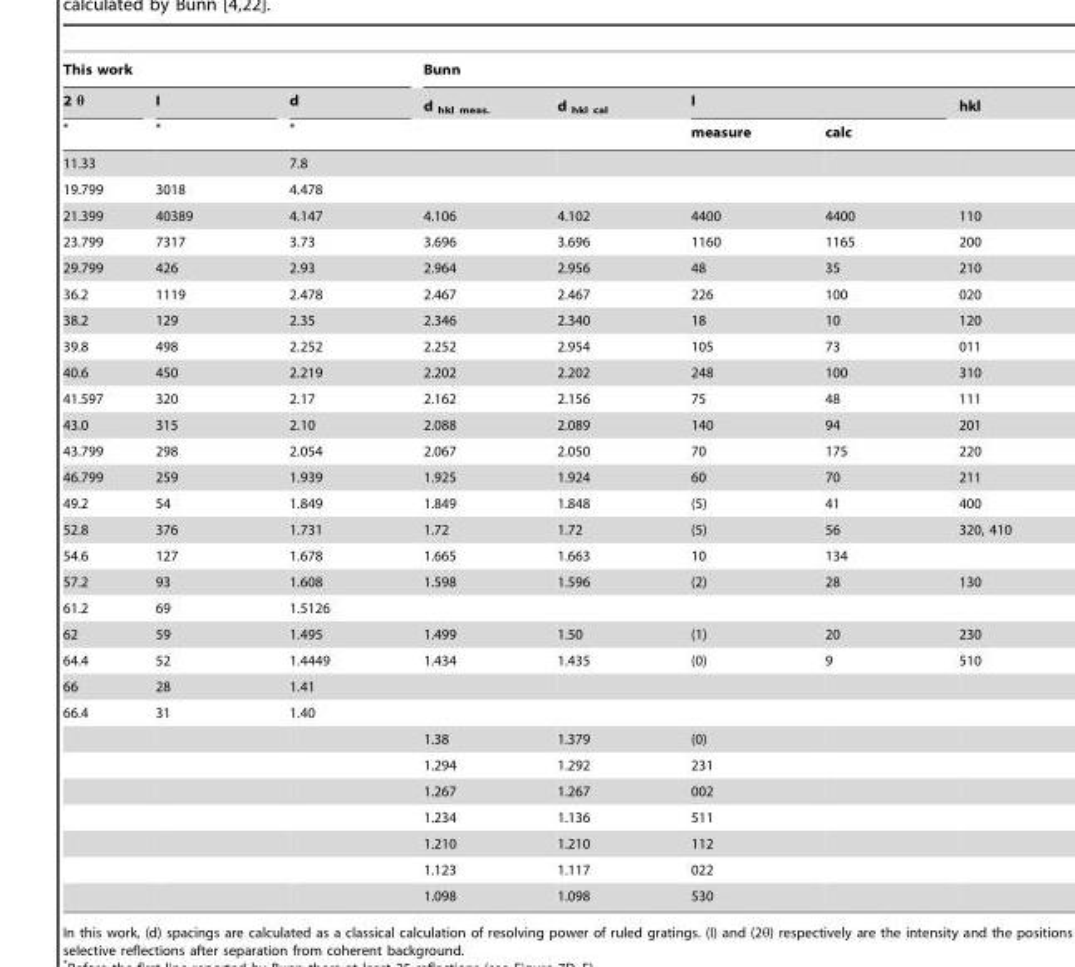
<table><thead><tr><td colspan="3">This work</td><td colspan="5">Bunn</td></tr><tr><td rowspan="2">2 θ *</td><td rowspan="2">I *</td><td rowspan="2">d *</td><td rowspan="2">d <sub>hkl meas.</sub></td><td rowspan="2">d <sub>hkl cal</sub></td><td colspan="2">I</td><td rowspan="2">hkl</td></tr><tr><td>measure</td><td>calc</td></tr></thead><tbody><tr><td>11.33</td><td></td><td>7.8</td><td></td><td></td><td></td><td></td><td></td></tr><tr><td>19.799</td><td>3018</td><td>4.478</td><td></td><td></td><td></td><td></td><td></td></tr><tr><td>21.399</td><td>40389</td><td>4.147</td><td>4.106</td><td>4.102</td><td>4400</td><td>4400</td><td>110</td></tr><tr><td>23.799</td><td>7317</td><td>3.73</td><td>3.696</td><td>3.696</td><td>1160</td><td>1165</td><td>200</td></tr><tr><td>29.799</td><td>426</td><td>2.93</td><td>2.964</td><td>2.956</td><td>48</td><td>35</td><td>210</td></tr><tr><td>36.2</td><td>1119</td><td>2.478</td><td>2.467</td><td>2.467</td><td>226</td><td>100</td><td>020</td></tr><tr><td>38.2</td><td>129</td><td>2.35</td><td>2.346</td><td>2.340</td><td>18</td><td>10</td><td>120</td></tr><tr><td>39.8</td><td>498</td><td>2.252</td><td>2.252</td><td>2.954</td><td>105</td><td>73</td><td>011</td></tr><tr><td>40.6</td><td>450</td><td>2.219</td><td>2.202</td><td>2.202</td><td>248</td><td>100</td><td>310</td></tr><tr><td>41.597</td><td>320</td><td>2.17</td><td>2.162</td><td>2.156</td><td>75</td><td>48</td><td>111</td></tr><tr><td>43.0</td><td>315</td><td>2.10</td><td>2.088</td><td>2.089</td><td>140</td><td>94</td><td>201</td></tr><tr><td>43.799</td><td>298</td><td>2.054</td><td>2.067</td><td>2.050</td><td>70</td><td>175</td><td>220</td></tr><tr><td>46.799</td><td>259</td><td>1.939</td><td>1.925</td><td>1.924</td><td>60</td><td>70</td><td>211</td></tr><tr><td>49.2</td><td>54</td><td>1.849</td><td>1.849</td><td>1.848</td><td>(5)</td><td>41</td><td>400</td></tr><tr><td>52.8</td><td>376</td><td>1.731</td><td>1.72</td><td>1.72</td><td>(5)</td><td>56</td><td>320, 410</td></tr><tr><td>54.6</td><td>127</td><td>1.678</td><td>1.665</td><td>1.663</td><td>10</td><td>134</td><td></td></tr><tr><td>57.2</td><td>93</td><td>1.608</td><td>1.598</td><td>1.596</td><td>(2)</td><td>28</td><td>130</td></tr><tr><td>61.2</td><td>69</td><td>1.5126</td><td></td><td></td><td></td><td></td><td></td></tr><tr><td>62</td><td>59</td><td>1.495</td><td>1.499</td><td>1.50</td><td>(1)</td><td>20</td><td>230</td></tr><tr><td>64.4</td><td>52</td><td>1.4449</td><td>1.434</td><td>1.435</td><td>(0)</td><td>9</td><td>510</td></tr><tr><td>66</td><td>28</td><td>1.41</td><td></td><td></td><td></td><td></td><td></td></tr><tr><td rowspan="8">66.4</td><td>31</td><td>1.40</td><td></td><td></td><td></td><td></td><td></td></tr><tr><td></td><td></td><td>1.38</td><td>1.379</td><td>(0)</td><td></td><td></td></tr><tr><td></td><td></td><td>1.294</td><td>1.292</td><td>231</td><td></td><td></td></tr><tr><td></td><td></td><td>1.267</td><td>1.267</td><td>002</td><td></td><td></td></tr><tr><td></td><td></td><td>1.234</td><td>1.136</td><td>511</td><td></td><td></td></tr><tr><td></td><td></td><td>1.210</td><td>1.210</td><td>112</td><td></td><td></td></tr><tr><td></td><td></td><td>1.123</td><td>1.117</td><td>022</td><td></td><td></td></tr><tr><td></td><td></td><td>1.098</td><td>1.098</td><td>530</td><td></td><td></td></tr></tbody></table>